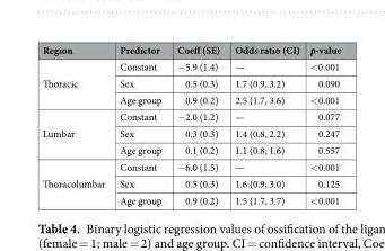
<table><thead><tr><td>Region</td><td>Predictor</td><td>Coeff (SE)</td><td>Odds ratio (CI)</td><td>p-value</td></tr></thead><tbody><tr><td rowspan="3">Thoracic</td><td>Constant</td><td>−5.9 (1.4)</td><td>—</td><td>&lt;0.001</td></tr><tr><td>Sex</td><td>0.5 (0.3)</td><td>1.7 (0.9, 3.2)</td><td>0.090</td></tr><tr><td>Age group</td><td>0.9 (0.2)</td><td>2.5 (1.7, 3.6)</td><td>&lt;0.001</td></tr><tr><td rowspan="3">Lumbar</td><td>Constant</td><td>−2.0 (1.2)</td><td>—</td><td>0.077</td></tr><tr><td>Sex</td><td>0.3 (0.3)</td><td>1.4 (0.8, 2.2)</td><td>0.247</td></tr><tr><td>Age group</td><td>0.1 (0.2)</td><td>1.1 (0.8, 1.6)</td><td>0.557</td></tr><tr><td rowspan="3">Thoracolumbar</td><td>Constant</td><td>−6.0 (1.5)</td><td>—</td><td>&lt;0.001</td></tr><tr><td>Sex</td><td>0.5 (0.3)</td><td>1.6 (0.9, 3.0)</td><td>0.125</td></tr><tr><td>Age group</td><td>0.9 (0.2)</td><td>1.5 (1.7, 3.7)</td><td>&lt;0.001</td></tr></tbody></table>